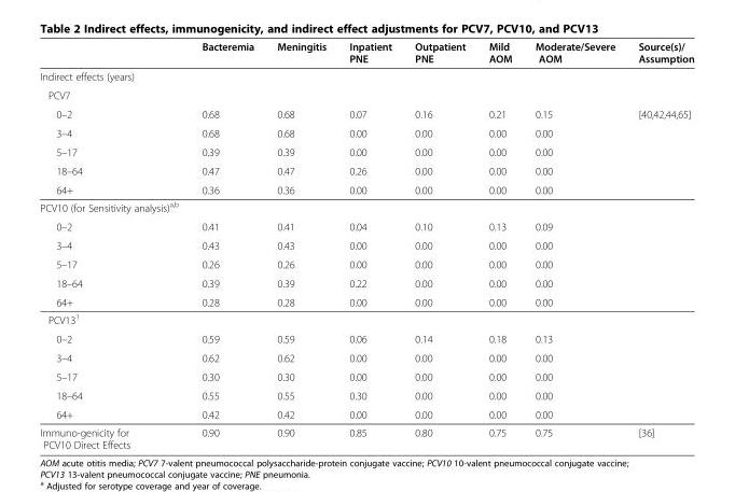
<table><thead><tr><td></td><td>Bacteremia</td><td>Meningitis</td><td>Inpatient PNE</td><td>Outpatient PNE</td><td>Mild AOM</td><td>Moderate/Severe AOM</td><td>Source(s)/ Assumption</td></tr></thead><tbody><tr><td colspan="8">Indirect effects (years)</td></tr><tr><td colspan="8">PCV7</td></tr><tr><td>0–2</td><td>0.68</td><td>0.68</td><td>0.07</td><td>0.16</td><td>0.21</td><td>0.15</td><td rowspan="4">[40,42,44,65]</td></tr><tr><td>3–4</td><td>0.68</td><td>0.68</td><td>0.00</td><td>0.00</td><td>0.00</td><td>0.00</td></tr><tr><td>5–17</td><td>0.39</td><td>0.39</td><td>0.00</td><td>0.00</td><td>0.00</td><td>0.00</td></tr><tr><td>18–64</td><td>0.47</td><td>0.47</td><td>0.26</td><td>0.00</td><td>0.00</td><td>0.00</td></tr><tr><td>64+</td><td>0.36</td><td>0.36</td><td>0.00</td><td>0.00</td><td>0.00</td><td>0.00</td><td></td></tr><tr><td colspan="8">PCV10 (for Sensitivity analysis)<sup>a,b</sup></td></tr><tr><td>0–2</td><td>0.41</td><td>0.41</td><td>0.04</td><td>0.10</td><td>0.13</td><td>0.09</td><td rowspan="4"></td></tr><tr><td>3–4</td><td>0.43</td><td>0.43</td><td>0.00</td><td>0.00</td><td>0.00</td><td>0.00</td></tr><tr><td>5–17</td><td>0.26</td><td>0.26</td><td>0.00</td><td>0.00</td><td>0.00</td><td>0.00</td></tr><tr><td>18–64</td><td>0.39</td><td>0.39</td><td>0.22</td><td>0.00</td><td>0.00</td><td>0.00</td></tr><tr><td>64+</td><td>0.28</td><td>0.28</td><td>0.00</td><td>0.00</td><td>0.00</td><td>0.00</td><td></td></tr><tr><td colspan="8">PCV13<sup>1</sup></td></tr><tr><td>0–2</td><td>0.59</td><td>0.59</td><td>0.06</td><td>0.14</td><td>0.18</td><td>0.13</td><td rowspan="4"></td></tr><tr><td>3–4</td><td>0.62</td><td>0.62</td><td>0.00</td><td>0.00</td><td>0.00</td><td>0.00</td></tr><tr><td>5–17</td><td>0.30</td><td>0.30</td><td>0.00</td><td>0.00</td><td>0.00</td><td>0.00</td></tr><tr><td>18–64</td><td>0.55</td><td>0.55</td><td>0.30</td><td>0.00</td><td>0.00</td><td>0.00</td></tr><tr><td>64+</td><td>0.42</td><td>0.42</td><td>0.00</td><td>0.00</td><td>0.00</td><td>0.00</td><td></td></tr><tr><td>Immuno-genicity for PCV10 Direct Effects</td><td>0.90</td><td>0.90</td><td>0.85</td><td>0.80</td><td>0.75</td><td>0.75</td><td>[36]</td></tr></tbody></table>